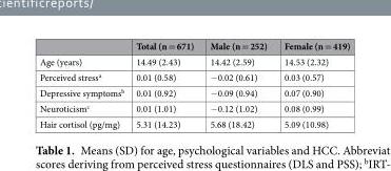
<table><thead><tr><td></td><td>Total (n = 671)</td><td>Male (n = 252)</td><td>Female (n = 419)</td></tr></thead><tbody><tr><td>Age (years)</td><td>14.49 (2.43)</td><td>14.42 (2.59)</td><td>14.53 (2.32)</td></tr><tr><td>Perceived stress<sup>a</sup></td><td>0.01 (0.58)</td><td>−0.02 (0.61)</td><td>0.03 (0.57)</td></tr><tr><td>Depressive symptoms<sup>b</sup></td><td>0.01 (0.92)</td><td>−0.09 (0.94)</td><td>0.07 (0.90)</td></tr><tr><td>Neuroticism<sup>c</sup></td><td>0.01 (1.01)</td><td>−0.12 (1.02)</td><td>0.08 (0.99)</td></tr><tr><td>Hair cortisol (pg/mg)</td><td>5.31 (14.23)</td><td>5.68 (18.42)</td><td>5.09 (10.98)</td></tr></tbody></table>